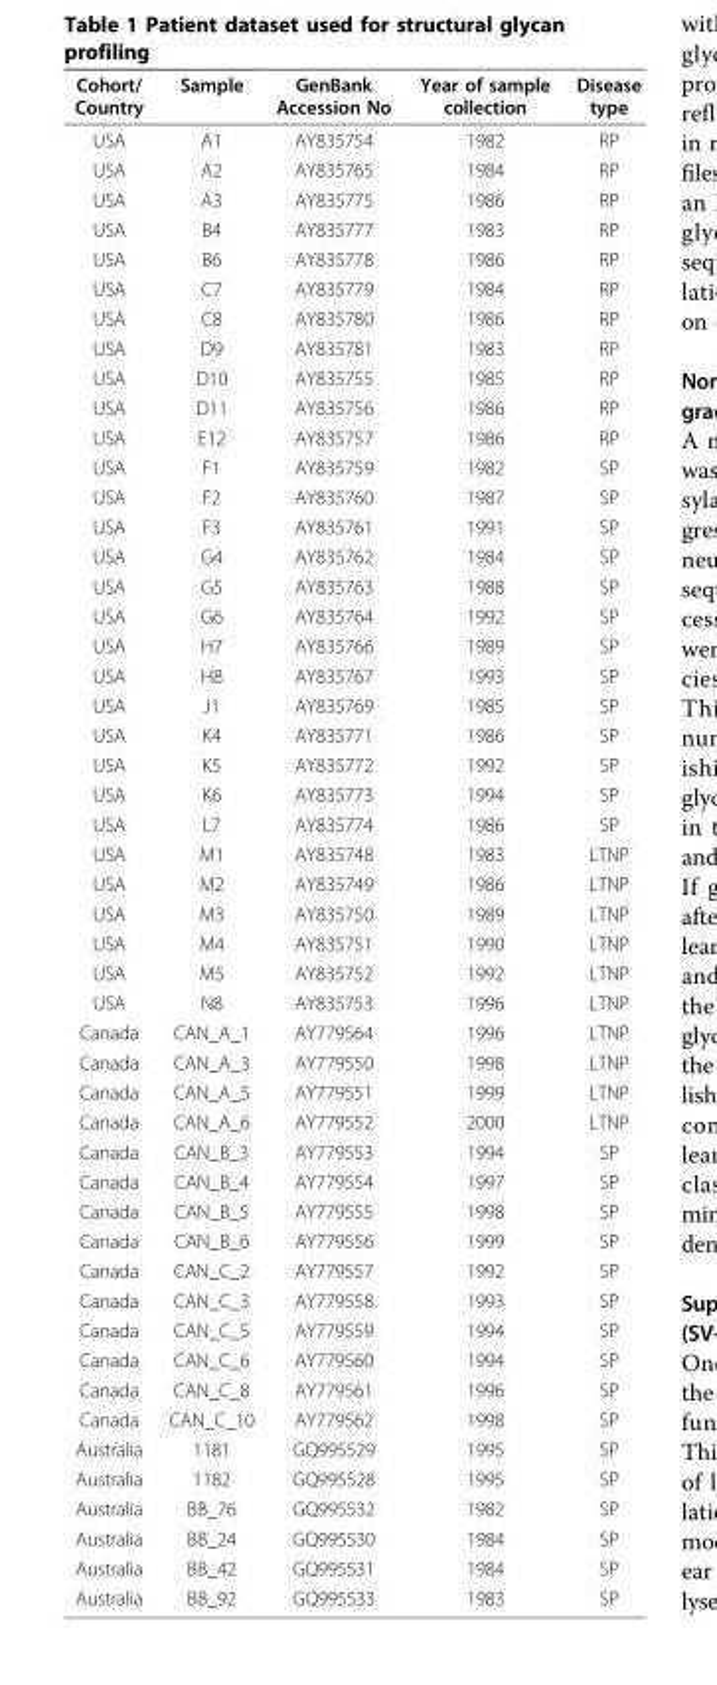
<table><thead><tr><td>Cohort/ Country</td><td>Sample</td><td>GenBank Accession No</td><td>Year of sample collection</td><td>Disease type</td></tr></thead><tbody><tr><td>USA</td><td>A1</td><td>AY835754</td><td>1982</td><td>RP</td></tr><tr><td>USA</td><td>A2</td><td>AY835765</td><td>1984</td><td>RP</td></tr><tr><td>USA</td><td>A3</td><td>AY835775</td><td>1986</td><td>RP</td></tr><tr><td>USA</td><td>B4</td><td>AY835777</td><td>1983</td><td>RP</td></tr><tr><td>USA</td><td>B6</td><td>AY835778</td><td>1986</td><td>RP</td></tr><tr><td>USA</td><td>C7</td><td>AY835779</td><td>1984</td><td>RP</td></tr><tr><td>USA</td><td>C8</td><td>AY835780</td><td>1986</td><td>RP</td></tr><tr><td>USA</td><td>D9</td><td>AY835781</td><td>1983</td><td>RP</td></tr><tr><td>USA</td><td>D10</td><td>AY835755</td><td>1985</td><td>RP</td></tr><tr><td>USA</td><td>D11</td><td>AY835756</td><td>1986</td><td>RP</td></tr><tr><td>USA</td><td>E12</td><td>AY835757</td><td>1986</td><td>RP</td></tr><tr><td>USA</td><td>F1</td><td>AY835759</td><td>1982</td><td>SP</td></tr><tr><td>USA</td><td>F2</td><td>AY835760</td><td>1987</td><td>SP</td></tr><tr><td>USA</td><td>F3</td><td>AY835761</td><td>1991</td><td>SP</td></tr><tr><td>USA</td><td>G4</td><td>AY835762</td><td>1984</td><td>SP</td></tr><tr><td>USA</td><td>G5</td><td>AY835763</td><td>1988</td><td>SP</td></tr><tr><td>USA</td><td>G6</td><td>AY835764</td><td>1992</td><td>SP</td></tr><tr><td>USA</td><td>H7</td><td>AY835766</td><td>1989</td><td>SP</td></tr><tr><td>USA</td><td>H8</td><td>AY835767</td><td>1993</td><td>SP</td></tr><tr><td>USA</td><td>J1</td><td>AY835769</td><td>1985</td><td>SP</td></tr><tr><td>USA</td><td>K4</td><td>AY835771</td><td>1986</td><td>SP</td></tr><tr><td>USA</td><td>K5</td><td>AY835772</td><td>1992</td><td>SP</td></tr><tr><td>USA</td><td>K6</td><td>AY835773</td><td>1994</td><td>SP</td></tr><tr><td>USA</td><td>L7</td><td>AY835774</td><td>1986</td><td>SP</td></tr><tr><td>USA</td><td>M1</td><td>AY835748</td><td>1983</td><td>LTNP</td></tr><tr><td>USA</td><td>M2</td><td>AY835749</td><td>1986</td><td>LTNP</td></tr><tr><td>USA</td><td>M3</td><td>AY835750</td><td>1989</td><td>LTNP</td></tr><tr><td>USA</td><td>M4</td><td>AY835751</td><td>1990</td><td>LTNP</td></tr><tr><td>USA</td><td>M5</td><td>AY835752</td><td>1992</td><td>LTNP</td></tr><tr><td>USA</td><td>N8</td><td>AY835753</td><td>1996</td><td>LTNP</td></tr><tr><td>Canada</td><td>CAN_A_1</td><td>AY779564</td><td>1996</td><td>LTNP</td></tr><tr><td>Canada</td><td>CAN_A_3</td><td>AY779550</td><td>1998</td><td>LTNP</td></tr><tr><td>Canada</td><td>CAN_A_5</td><td>AY779551</td><td>1999</td><td>LTNP</td></tr><tr><td>Canada</td><td>CAN_A_6</td><td>AY779552</td><td>2000</td><td>LTNP</td></tr><tr><td>Canada</td><td>CAN_B_3</td><td>AY779553</td><td>1994</td><td>SP</td></tr><tr><td>Canada</td><td>CAN_B_4</td><td>AY779554</td><td>1997</td><td>SP</td></tr><tr><td>Canada</td><td>CAN_B_5</td><td>AY779555</td><td>1998</td><td>SP</td></tr><tr><td>Canada</td><td>CAN_B_6</td><td>AY779556</td><td>1999</td><td>SP</td></tr><tr><td>Canada</td><td>CAN_C_2</td><td>AY779557</td><td>1992</td><td>SP</td></tr><tr><td>Canada</td><td>CAN_C_3</td><td>AY779558</td><td>1993</td><td>SP</td></tr><tr><td>Canada</td><td>CAN_C_5</td><td>AY779559</td><td>1994</td><td>SP</td></tr><tr><td>Canada</td><td>CAN_C_6</td><td>AY779560</td><td>1994</td><td>SP</td></tr><tr><td>Canada</td><td>CAN_C_8</td><td>AY779561</td><td>1996</td><td>SP</td></tr><tr><td>Canada</td><td>CAN_C_10</td><td>AY779562</td><td>1998</td><td>SP</td></tr><tr><td>Australia</td><td>1181</td><td>GQ995529</td><td>1995</td><td>SP</td></tr><tr><td>Australia</td><td>1182</td><td>GQ995528</td><td>1995</td><td>SP</td></tr><tr><td>Australia</td><td>BB_76</td><td>GQ995532</td><td>1982</td><td>SP</td></tr><tr><td>Australia</td><td>BB_24</td><td>GQ995530</td><td>1984</td><td>SP</td></tr><tr><td>Australia</td><td>BB_42</td><td>GQ995531</td><td>1984</td><td>SP</td></tr><tr><td>Australia</td><td>BB_92</td><td>GQ995533</td><td>1983</td><td>SP</td></tr></tbody></table>